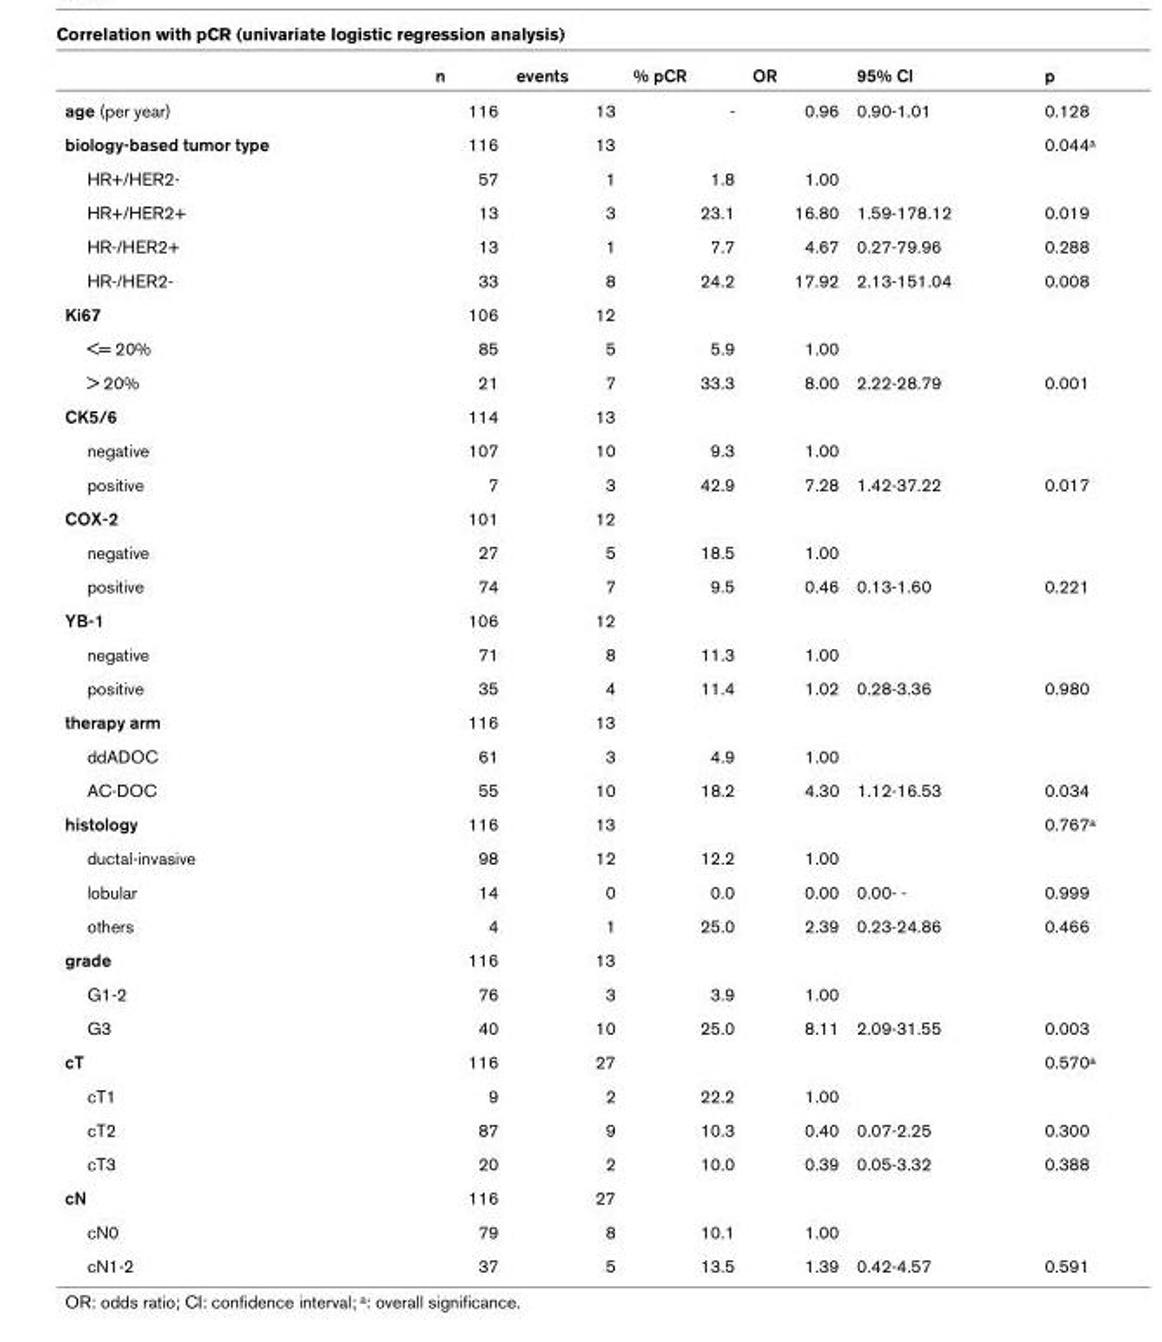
<table><thead><tr><td></td><td>n</td><td>events</td><td>% pCR</td><td>OR</td><td>95% CI</td><td>p</td></tr></thead><tbody><tr><td>age (per year)</td><td>116</td><td>13</td><td>-</td><td>0.96</td><td>0.90-1.01</td><td>0.128</td></tr><tr><td>biology-based tumor type</td><td>116</td><td>13</td><td></td><td></td><td></td><td>0.044<sup>a</sup></td></tr><tr><td>HR+/HER2-</td><td>57</td><td>1</td><td>1.8</td><td>1.00</td><td></td><td></td></tr><tr><td>HR+/HER2+</td><td>13</td><td>3</td><td>23.1</td><td>16.80</td><td>1.59-178.12</td><td>0.019</td></tr><tr><td>HR-/HER2+</td><td>13</td><td>1</td><td>7.7</td><td>4.67</td><td>0.27-79.96</td><td>0.288</td></tr><tr><td>HR-/HER2-</td><td>33</td><td>8</td><td>24.2</td><td>17.92</td><td>2.13-151.04</td><td>0.008</td></tr><tr><td>Ki67</td><td>106</td><td>12</td><td></td><td></td><td></td><td></td></tr><tr><td>&lt;= 20%</td><td>85</td><td>5</td><td>5.9</td><td>1.00</td><td></td><td></td></tr><tr><td>&gt; 20%</td><td>21</td><td>7</td><td>33.3</td><td>8.00</td><td>2.22-28.79</td><td>0.001</td></tr><tr><td>CK5/6</td><td>114</td><td>13</td><td></td><td></td><td></td><td></td></tr><tr><td>negative</td><td>107</td><td>10</td><td>9.3</td><td>1.00</td><td></td><td></td></tr><tr><td>positive</td><td>7</td><td>3</td><td>42.9</td><td>7.28</td><td>1.42-37.22</td><td>0.017</td></tr><tr><td>COX-2</td><td>101</td><td>12</td><td></td><td></td><td></td><td></td></tr><tr><td>negative</td><td>27</td><td>5</td><td>18.5</td><td>1.00</td><td></td><td></td></tr><tr><td>positive</td><td>74</td><td>7</td><td>9.5</td><td>0.46</td><td>0.13-1.60</td><td>0.221</td></tr><tr><td>YB-1</td><td>106</td><td>12</td><td></td><td></td><td></td><td></td></tr><tr><td>negative</td><td>71</td><td>8</td><td>11.3</td><td>1.00</td><td></td><td></td></tr><tr><td>positive</td><td>35</td><td>4</td><td>11.4</td><td>1.02</td><td>0.28-3.36</td><td>0.980</td></tr><tr><td>therapy arm</td><td>116</td><td>13</td><td></td><td></td><td></td><td></td></tr><tr><td>ddADOC</td><td>61</td><td>3</td><td>4.9</td><td>1.00</td><td></td><td></td></tr><tr><td>AC-DOC</td><td>55</td><td>10</td><td>18.2</td><td>4.30</td><td>1.12-16.53</td><td>0.034</td></tr><tr><td>histology</td><td>116</td><td>13</td><td></td><td></td><td></td><td>0.767<sup>a</sup></td></tr><tr><td>ductal-invasive</td><td>98</td><td>12</td><td>12.2</td><td>1.00</td><td></td><td></td></tr><tr><td>lobular</td><td>14</td><td>0</td><td>0.0</td><td>0.00</td><td>0.00- -</td><td>0.999</td></tr><tr><td>others</td><td>4</td><td>1</td><td>25.0</td><td>2.39</td><td>0.23-24.86</td><td>0.466</td></tr><tr><td>grade</td><td>116</td><td>13</td><td></td><td></td><td></td><td></td></tr><tr><td>G1-2</td><td>76</td><td>3</td><td>3.9</td><td>1.00</td><td></td><td></td></tr><tr><td>G3</td><td>40</td><td>10</td><td>25.0</td><td>8.11</td><td>2.09-31.55</td><td>0.003</td></tr><tr><td>cT</td><td>116</td><td>27</td><td></td><td></td><td></td><td>0.570<sup>a</sup></td></tr><tr><td>cT1</td><td>9</td><td>2</td><td>22.2</td><td>1.00</td><td></td><td></td></tr><tr><td>cT2</td><td>87</td><td>9</td><td>10.3</td><td>0.40</td><td>0.07-2.25</td><td>0.300</td></tr><tr><td>cT3</td><td>20</td><td>2</td><td>10.0</td><td>0.39</td><td>0.05-3.32</td><td>0.388</td></tr><tr><td>cN</td><td>116</td><td>27</td><td></td><td></td><td></td><td></td></tr><tr><td>cN0</td><td>79</td><td>8</td><td>10.1</td><td>1.00</td><td></td><td></td></tr><tr><td>cN1-2</td><td>37</td><td>5</td><td>13.5</td><td>1.39</td><td>0.42-4.57</td><td>0.591</td></tr></tbody></table>